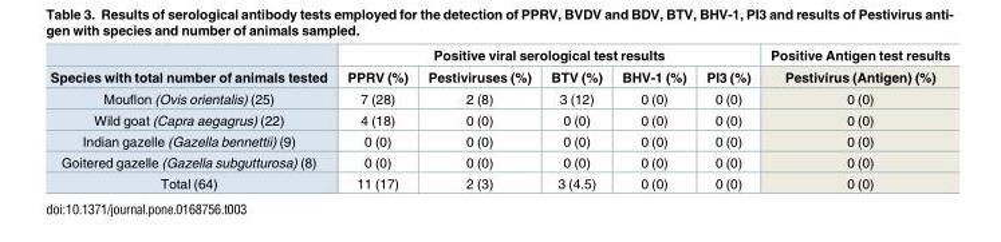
<table><thead><tr><td rowspan="2">Species with total number of animals tested</td><td colspan="5">Positive viral serological test results</td><td rowspan="2">Positive Antigen test results Pestivirus (Antigen) (%)</td></tr><tr><td>PPRV (%)</td><td>Pestiviruses (%)</td><td>BTV (%)</td><td>BHV-1 (%)</td><td>PI3 (%)</td></tr></thead><tbody><tr><td>Mouflon (Ovis orientalis) (25)</td><td>7 (28)</td><td>2 (8)</td><td>3 (12)</td><td>0 (0)</td><td>0 (0)</td><td>0 (0)</td></tr><tr><td>Wild goat (Capra aegagrus) (22)</td><td>4 (18)</td><td>0 (0)</td><td>0 (0)</td><td>0 (0)</td><td>0 (0)</td><td>0 (0)</td></tr><tr><td>Indian gazelle (Gazella bennettii) (9)</td><td>0 (0)</td><td>0 (0)</td><td>0 (0)</td><td>0 (0)</td><td>0 (0)</td><td>0 (0)</td></tr><tr><td>Goitered gazelle (Gazella subgutturosa) (8)</td><td>0 (0)</td><td>0 (0)</td><td>0 (0)</td><td>0 (0)</td><td>0 (0)</td><td>0 (0)</td></tr><tr><td>Total (64)</td><td>11 (17)</td><td>2 (3)</td><td>3 (4.5)</td><td>0 (0)</td><td>0 (0)</td><td>0 (0)</td></tr></tbody></table>